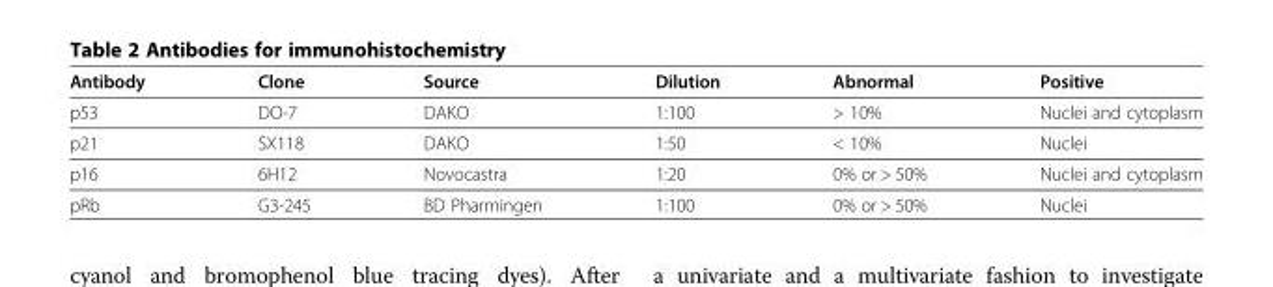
<table><thead><tr><td>Antibody</td><td>Clone</td><td>Source</td><td>Dilution</td><td>Abnormal</td><td>Positive</td></tr></thead><tbody><tr><td>p53</td><td>DO-7</td><td>DAKO</td><td>1:100</td><td>&gt; 10%</td><td>Nuclei and cytoplasm</td></tr><tr><td>p21</td><td>SX118</td><td>DAKO</td><td>1:50</td><td>&lt; 10%</td><td>Nuclei</td></tr><tr><td>p16</td><td>6H12</td><td>Novocastra</td><td>1:20</td><td>0% or &gt; 50%</td><td>Nuclei and cytoplasm</td></tr><tr><td>pRb</td><td>G3-245</td><td>BD Pharmingen</td><td>1:100</td><td>0% or &gt; 50%</td><td>Nuclei</td></tr></tbody></table>